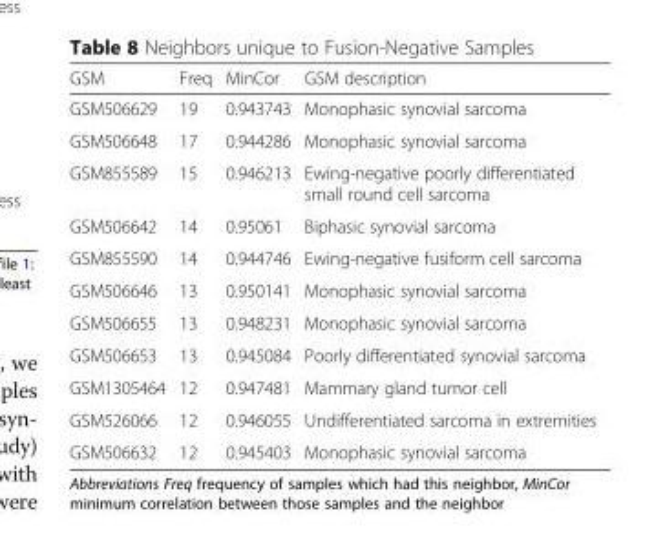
<table><thead><tr><td>GSM</td><td>Freq</td><td>MinCor</td><td>GSM description</td></tr></thead><tbody><tr><td>GSM506629</td><td>19</td><td>0.943743</td><td>Monophasic synovial sarcoma</td></tr><tr><td>GSM506648</td><td>17</td><td>0.944286</td><td>Monophasic synovial sarcoma</td></tr><tr><td>GSM855589</td><td>15</td><td>0.946213</td><td>Ewing-negative poorly differentiated small round cell sarcoma</td></tr><tr><td>GSM506642</td><td>14</td><td>0.95061</td><td>Biphasic synovial sarcoma</td></tr><tr><td>GSM855590</td><td>14</td><td>0.944746</td><td>Ewing-negative fusiform cell sarcoma</td></tr><tr><td>GSM506646</td><td>13</td><td>0.950141</td><td>Monophasic synovial sarcoma</td></tr><tr><td>GSM506655</td><td>13</td><td>0.948231</td><td>Monophasic synovial sarcoma</td></tr><tr><td>GSM506653</td><td>13</td><td>0.945084</td><td>Poorly differentiated synovial sarcoma</td></tr><tr><td>GSM1305464</td><td>12</td><td>0.947481</td><td>Mammary gland tumor cell</td></tr><tr><td>GSM526066</td><td>12</td><td>0.946055</td><td>Undifferentiated sarcoma in extremities</td></tr><tr><td>GSM506632</td><td>12</td><td>0.945403</td><td>Monophasic synovial sarcoma</td></tr></tbody></table>